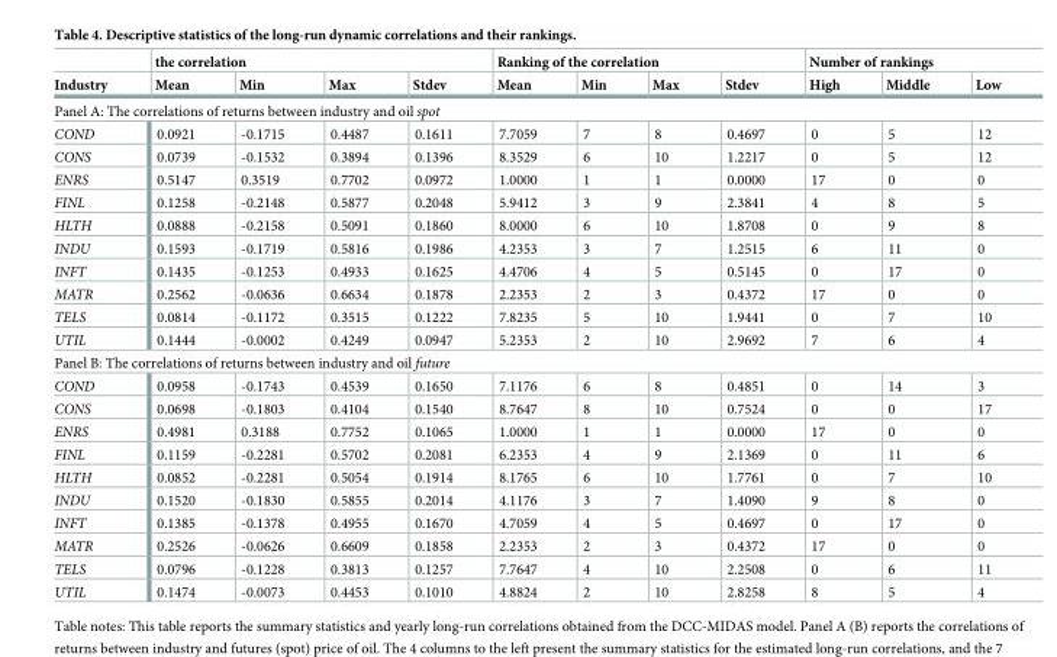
<table><thead><tr><td rowspan="2">Industry</td><td colspan="4">the correlation</td><td colspan="4">Ranking of the correlation</td><td colspan="3">Number of rankings</td></tr><tr><td>Mean</td><td>Min</td><td>Max</td><td>Stdev</td><td>Mean</td><td>Min</td><td>Max</td><td>Stdev</td><td>High</td><td>Middle</td><td>Low</td></tr></thead><tbody><tr><td colspan="12">Panel A: The correlations of returns between industry and oil spot</td></tr><tr><td>COND</td><td>0.0921</td><td>-0.1715</td><td>0.4487</td><td>0.1611</td><td>7.7059</td><td>7</td><td>8</td><td>0.4697</td><td>0</td><td>5</td><td>12</td></tr><tr><td>CONS</td><td>0.0739</td><td>-0.1532</td><td>0.3894</td><td>0.1396</td><td>8.3529</td><td>6</td><td>10</td><td>1.2217</td><td>0</td><td>5</td><td>12</td></tr><tr><td>ENRS</td><td>0.5147</td><td>0.3519</td><td>0.7702</td><td>0.0972</td><td>1.0000</td><td>1</td><td>1</td><td>0.0000</td><td>17</td><td>0</td><td>0</td></tr><tr><td>FINL</td><td>0.1258</td><td>-0.2148</td><td>0.5877</td><td>0.2048</td><td>5.9412</td><td>3</td><td>9</td><td>2.3841</td><td>4</td><td>8</td><td>5</td></tr><tr><td>HLTH</td><td>0.0888</td><td>-0.2158</td><td>0.5091</td><td>0.1860</td><td>8.0000</td><td>6</td><td>10</td><td>1.8708</td><td>0</td><td>9</td><td>8</td></tr><tr><td>INDU</td><td>0.1593</td><td>-0.1719</td><td>0.5816</td><td>0.1986</td><td>4.2353</td><td>3</td><td>7</td><td>1.2515</td><td>6</td><td>11</td><td>0</td></tr><tr><td>INFT</td><td>0.1435</td><td>-0.1253</td><td>0.4933</td><td>0.1625</td><td>4.4706</td><td>4</td><td>5</td><td>0.5145</td><td>0</td><td>17</td><td>0</td></tr><tr><td>MATR</td><td>0.2562</td><td>-0.0636</td><td>0.6634</td><td>0.1878</td><td>2.2353</td><td>2</td><td>3</td><td>0.4372</td><td>17</td><td>0</td><td>0</td></tr><tr><td>TELS</td><td>0.0814</td><td>-0.1172</td><td>0.3515</td><td>0.1222</td><td>7.8235</td><td>5</td><td>10</td><td>1.9441</td><td>0</td><td>7</td><td>10</td></tr><tr><td>UTIL</td><td>0.1444</td><td>-0.0002</td><td>0.4249</td><td>0.0947</td><td>5.2353</td><td>2</td><td>10</td><td>2.9692</td><td>7</td><td>6</td><td>4</td></tr><tr><td colspan="12">Panel B: The correlations of returns between industry and oil future</td></tr><tr><td>COND</td><td>0.0958</td><td>-0.1743</td><td>0.4539</td><td>0.1650</td><td>7.1176</td><td>6</td><td>8</td><td>0.4851</td><td>0</td><td>14</td><td>3</td></tr><tr><td>CONS</td><td>0.0698</td><td>-0.1803</td><td>0.4104</td><td>0.1540</td><td>8.7647</td><td>8</td><td>10</td><td>0.7524</td><td>0</td><td>0</td><td>17</td></tr><tr><td>ENRS</td><td>0.4981</td><td>0.3188</td><td>0.7752</td><td>0.1065</td><td>1.0000</td><td>1</td><td>1</td><td>0.0000</td><td>17</td><td>0</td><td>0</td></tr><tr><td>FINL</td><td>0.1159</td><td>-0.2281</td><td>0.5702</td><td>0.2081</td><td>6.2353</td><td>4</td><td>9</td><td>2.1369</td><td>0</td><td>11</td><td>6</td></tr><tr><td>HLTH</td><td>0.0852</td><td>-0.2281</td><td>0.5054</td><td>0.1914</td><td>8.1765</td><td>6</td><td>10</td><td>1.7761</td><td>0</td><td>7</td><td>10</td></tr><tr><td>INDU</td><td>0.1520</td><td>-0.1830</td><td>0.5855</td><td>0.2014</td><td>4.1176</td><td>3</td><td>7</td><td>1.4090</td><td>9</td><td>8</td><td>0</td></tr><tr><td>INFT</td><td>0.1385</td><td>-0.1378</td><td>0.4955</td><td>0.1670</td><td>4.7059</td><td>4</td><td>5</td><td>0.4697</td><td>0</td><td>17</td><td>0</td></tr><tr><td>MATR</td><td>0.2526</td><td>-0.0626</td><td>0.6609</td><td>0.1858</td><td>2.2353</td><td>2</td><td>3</td><td>0.4372</td><td>17</td><td>0</td><td>0</td></tr><tr><td>TELS</td><td>0.0796</td><td>-0.1228</td><td>0.3813</td><td>0.1257</td><td>7.7647</td><td>4</td><td>10</td><td>2.2508</td><td>0</td><td>6</td><td>11</td></tr><tr><td>UTIL</td><td>0.1474</td><td>-0.0073</td><td>0.4453</td><td>0.1010</td><td>4.8824</td><td>2</td><td>10</td><td>2.8258</td><td>8</td><td>5</td><td>4</td></tr></tbody></table>